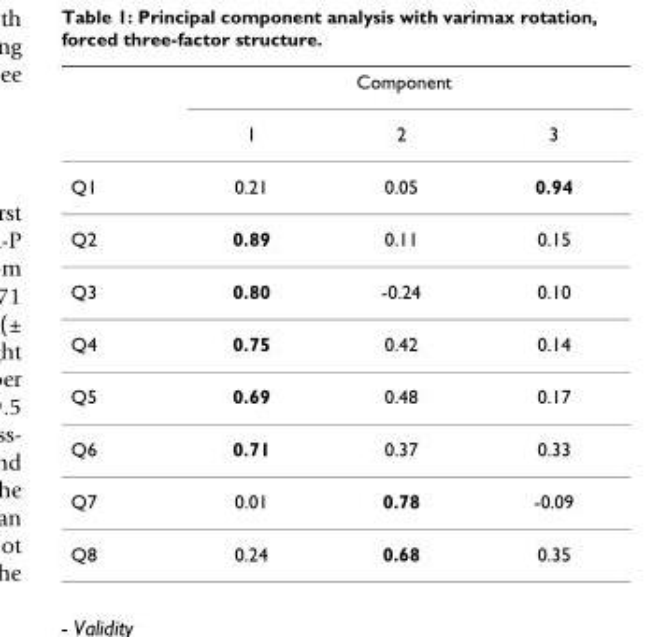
<table><thead><tr><td rowspan="2"></td><td colspan="3">Component</td></tr><tr><td>1</td><td>2</td><td>3</td></tr></thead><tbody><tr><td>Q1</td><td>0.21</td><td>0.05</td><td>0.94</td></tr><tr><td>Q2</td><td>0.89</td><td>0.11</td><td>0.15</td></tr><tr><td>Q3</td><td>0.80</td><td>-0.24</td><td>0.10</td></tr><tr><td>Q4</td><td>0.75</td><td>0.42</td><td>0.14</td></tr><tr><td>Q5</td><td>0.69</td><td>0.48</td><td>0.17</td></tr><tr><td>Q6</td><td>0.71</td><td>0.37</td><td>0.33</td></tr><tr><td>Q7</td><td>0.01</td><td>0.78</td><td>-0.09</td></tr><tr><td>Q8</td><td>0.24</td><td>0.68</td><td>0.35</td></tr></tbody></table>